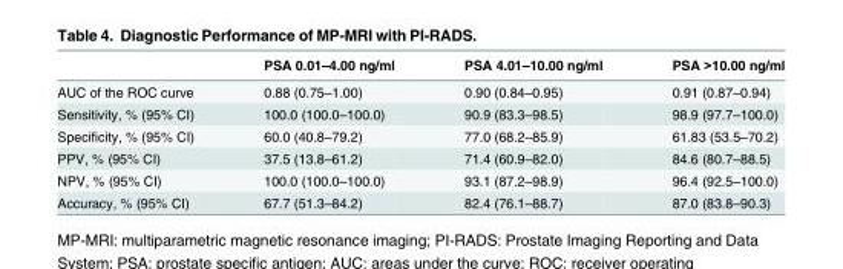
<table><thead><tr><td></td><td>PSA 0.01–4.00 ng/ml</td><td>PSA 4.01–10.00 ng/ml</td><td>PSA &gt;10.00 ng/ml</td></tr></thead><tbody><tr><td>AUC of the ROC curve</td><td>0.88 (0.75–1.00)</td><td>0.90 (0.84–0.95)</td><td>0.91 (0.87–0.94)</td></tr><tr><td>Sensitivity, % (95% CI)</td><td>100.0 (100.0–100.0)</td><td>90.9 (83.3–98.5)</td><td>98.9 (97.7–100.0)</td></tr><tr><td>Specificity, % (95% CI)</td><td>60.0 (40.8–79.2)</td><td>77.0 (68.2–85.9)</td><td>61.83 (53.5–70.2)</td></tr><tr><td>PPV, % (95% CI)</td><td>37.5 (13.8–61.2)</td><td>71.4 (60.9–82.0)</td><td>84.6 (80.7–88.5)</td></tr><tr><td>NPV, % (95% CI)</td><td>100.0 (100.0–100.0)</td><td>93.1 (87.2–98.9)</td><td>96.4 (92.5–100.0)</td></tr><tr><td>Accuracy, % (95% CI)</td><td>67.7 (51.3–84.2)</td><td>82.4 (76.1–88.7)</td><td>87.0 (83.8–90.3)</td></tr></tbody></table>